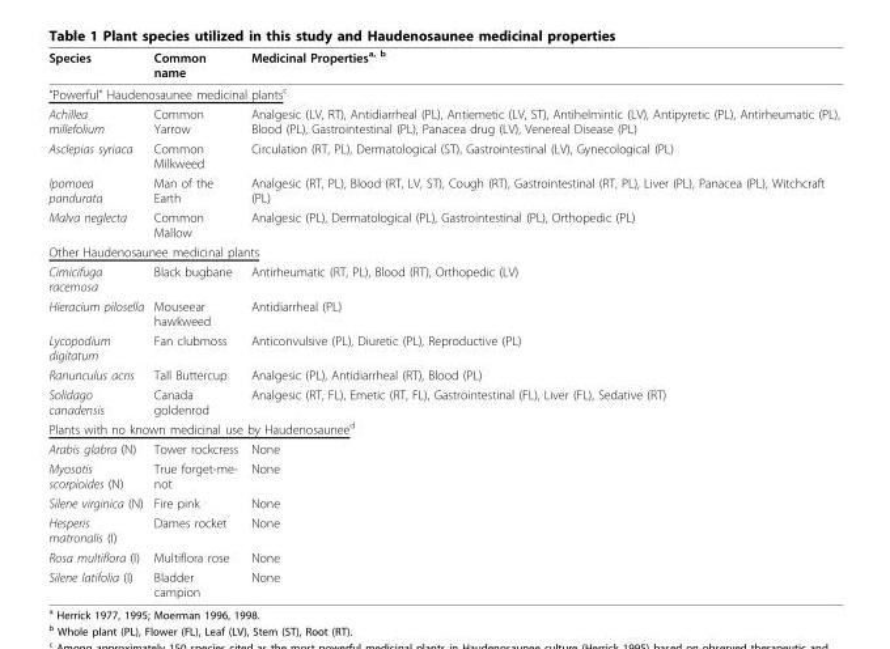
<table><thead><tr><td>Species</td><td>Common name</td><td>Medicinal Properties<sup>a, b</sup></td></tr></thead><tbody><tr><td colspan="3">“Powerful” Haudenosaunee medicinal plantsc</td></tr><tr><td>Achillea millefolium</td><td>Common Yarrow</td><td>Analgesic (LV, RT), Antidiarrheal (PL), Antiemetic (LV, ST), Antihelmintic (LV), Antipyretic (PL), Antirheumatic (PL), Blood (PL), Gastrointestinal (PL), Panacea drug (LV), Venereal Disease (PL)</td></tr><tr><td>Asclepias syriaca</td><td>Common Milkweed</td><td>Circulation (RT, PL), Dermatological (ST), Gastrointestinal (LV), Gynecological (PL)</td></tr><tr><td>Ipomoea pandurata</td><td>Man of the Earth</td><td>Analgesic (RT, PL), Blood (RT, LV, ST), Cough (RT), Gastrointestinal (RT, PL), Liver (PL), Panacea (PL), Witchcraft (PL)</td></tr><tr><td>Malva neglecta</td><td>Common Mallow</td><td>Analgesic (PL), Dermatological (PL), Gastrointestinal (PL), Orthopedic (PL)</td></tr><tr><td colspan="3">Other Haudenosaunee medicinal plants</td></tr><tr><td>Cimicifuga racemosa</td><td>Black bugbane</td><td>Antirheumatic (RT, PL), Blood (RT), Orthopedic (LV)</td></tr><tr><td>Hieracium pilosella</td><td>Mouseear hawkweed</td><td>Antidiarrheal (PL)</td></tr><tr><td>Lycopodium digitatum</td><td>Fan clubmoss</td><td>Anticonvulsive (PL), Diuretic (PL), Reproductive (PL)</td></tr><tr><td>Ranunculus acris</td><td>Tall Buttercup</td><td>Analgesic (PL), Antidiarrheal (RT), Blood (PL)</td></tr><tr><td>Solidago canadensis</td><td>Canada goldenrod</td><td>Analgesic (RT, FL), Emetic (RT, FL), Gastrointestinal (FL), Liver (FL), Sedative (RT)</td></tr><tr><td colspan="3">Plants with no known medicinal use by Haudenosaunee<sup>d</sup></td></tr><tr><td>Arabis glabra (N)</td><td>Tower rockcress</td><td>None</td></tr><tr><td>Myosotis scorpioides (N)</td><td>True forget-me- not</td><td>None</td></tr><tr><td>Silene virginica (N)</td><td>Fire pink</td><td>None</td></tr><tr><td>Hesperis matronalis (I)</td><td>Dames rocket</td><td>None</td></tr><tr><td>Rosa multiflora (I)</td><td>Multiflora rose</td><td>None</td></tr><tr><td>Silene latifolia (I)</td><td>Bladder campion</td><td>None</td></tr></tbody></table>